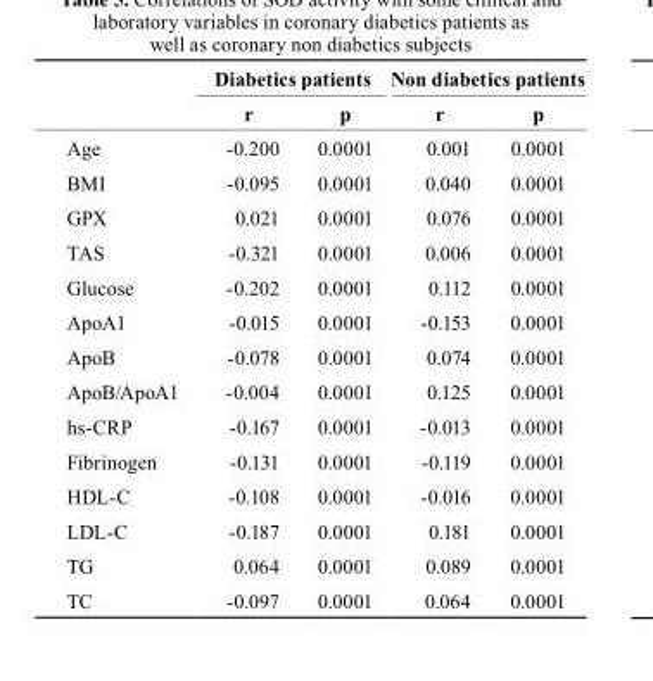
<table><thead><tr><td rowspan="2"></td><td colspan="2">diabetics patients</td><td colspan="2">non diabetics patients</td></tr><tr><td>r</td><td>p</td><td>r</td><td>p</td></tr></thead><tbody><tr><td>Age</td><td>-0.200</td><td>0.0001</td><td>0.001</td><td>0.0001</td></tr><tr><td>BMI</td><td>-0.095</td><td>0.0001</td><td>0.040</td><td>0.0001</td></tr><tr><td>GPX</td><td>0.021</td><td>0.0001</td><td>0.076</td><td>0.0001</td></tr><tr><td>TAS</td><td>-0.321</td><td>0.0001</td><td>0.006</td><td>0.0001</td></tr><tr><td>Glucose</td><td>-0.202</td><td>0.0001</td><td>0.112</td><td>0.0001</td></tr><tr><td>ApoA1</td><td>-0.015</td><td>0.0001</td><td>-0.153</td><td>0.0001</td></tr><tr><td>ApoB</td><td>-0.078</td><td>0.0001</td><td>0.074</td><td>0.0001</td></tr><tr><td>ApoB/ApoA1</td><td>-0.004</td><td>0.0001</td><td>0.125</td><td>0.0001</td></tr><tr><td>hs-CRP</td><td>-0.167</td><td>0.0001</td><td>-0.013</td><td>0.0001</td></tr><tr><td>Fibrinogen</td><td>-0.131</td><td>0.0001</td><td>-0.119</td><td>0.0001</td></tr><tr><td>HDL-C</td><td>-0.108</td><td>0.0001</td><td>-0.016</td><td>0.0001</td></tr><tr><td>LDL-C</td><td>-0.187</td><td>0.0001</td><td>0.181</td><td>0.0001</td></tr><tr><td>TG</td><td>0.064</td><td>0.0001</td><td>0.089</td><td>0.0001</td></tr><tr><td>TC</td><td>-0.097</td><td>0.0001</td><td>0.064</td><td>0.0001</td></tr></tbody></table>